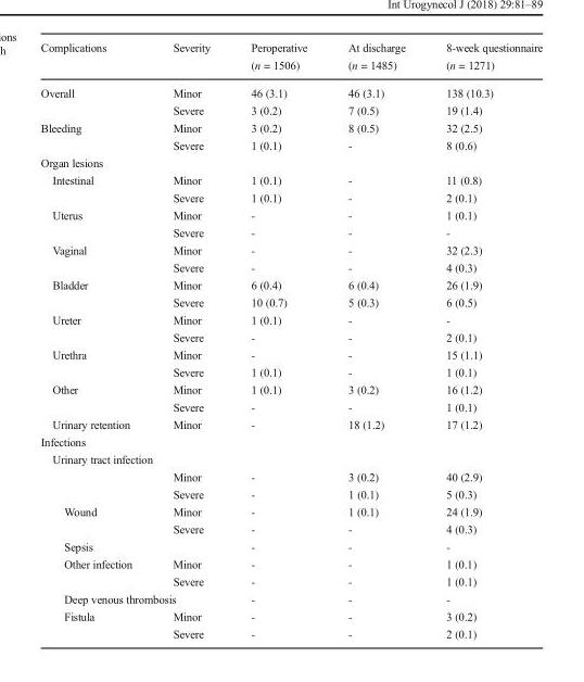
<table><thead><tr><td>Complications</td><td>Severity</td><td>Peroperative (n = 1506)</td><td>At discharge (n = 1485)</td><td>8-week questionnaire (n = 1271)</td></tr></thead><tbody><tr><td rowspan="2">Overall</td><td>Minor</td><td>46 (3.1)</td><td>46 (3.1)</td><td>138 (10.3)</td></tr><tr><td>Severe</td><td>3 (0.2)</td><td>7 (0.5)</td><td>19 (1.4)</td></tr><tr><td rowspan="2">Bleeding</td><td>Minor</td><td>3 (0.2)</td><td>8 (0.5)</td><td>32 (2.5)</td></tr><tr><td>Severe</td><td>1 (0.1)</td><td>-</td><td>8 (0.6)</td></tr><tr><td colspan="5">Organ lesions</td></tr><tr><td rowspan="2">Intestinal</td><td>Minor</td><td>1 (0.1)</td><td>-</td><td>11 (0.8)</td></tr><tr><td>Severe</td><td>1 (0.1)</td><td>-</td><td>2 (0.1)</td></tr><tr><td rowspan="2">Uterus</td><td>Minor</td><td>-</td><td>-</td><td>1 (0.1)</td></tr><tr><td>Severe</td><td>-</td><td>-</td><td>-</td></tr><tr><td rowspan="2">Vaginal</td><td>Minor</td><td>-</td><td>-</td><td>32 (2.3)</td></tr><tr><td>Severe</td><td>-</td><td>-</td><td>4 (0.3)</td></tr><tr><td rowspan="2">Bladder</td><td>Minor</td><td>6 (0.4)</td><td>6 (0.4)</td><td>26 (1.9)</td></tr><tr><td>Severe</td><td>10 (0.7)</td><td>5 (0.3)</td><td>6 (0.5)</td></tr><tr><td rowspan="2">Ureter</td><td>Minor</td><td>1 (0.1)</td><td>-</td><td>-</td></tr><tr><td>Severe</td><td>-</td><td>-</td><td>2 (0.1)</td></tr><tr><td rowspan="2">Urethra</td><td>Minor</td><td>-</td><td>-</td><td>15 (1.1)</td></tr><tr><td>Severe</td><td>1 (0.1)</td><td>-</td><td>1 (0.1)</td></tr><tr><td rowspan="2">Other</td><td>Minor</td><td>1 (0.1)</td><td>3 (0.2)</td><td>16 (1.2)</td></tr><tr><td>Severe</td><td>-</td><td>-</td><td>1 (0.1)</td></tr><tr><td>Urinary retention</td><td>Minor</td><td>-</td><td>18 (1.2)</td><td>17 (1.2)</td></tr><tr><td colspan="5">Infections</td></tr><tr><td colspan="5">Urinary tract infection</td></tr><tr><td rowspan="2"></td><td>Minor</td><td>-</td><td>3 (0.2)</td><td>40 (2.9)</td></tr><tr><td>Severe</td><td>-</td><td>1 (0.1)</td><td>5 (0.3)</td></tr><tr><td rowspan="2">Wound</td><td>Minor</td><td>-</td><td>1 (0.1)</td><td>24 (1.9)</td></tr><tr><td>Severe</td><td>-</td><td>-</td><td>4 (0.3)</td></tr><tr><td>Sepsis</td><td></td><td>-</td><td>-</td><td>-</td></tr><tr><td rowspan="2">Other infection</td><td>Minor</td><td>-</td><td>-</td><td>1 (0.1)</td></tr><tr><td>Severe</td><td>-</td><td>-</td><td>1 (0.1)</td></tr><tr><td colspan="2">Deep venous thrombosis</td><td>-</td><td>-</td><td>-</td></tr><tr><td rowspan="2">Fistula</td><td>Minor</td><td>-</td><td>-</td><td>3 (0.2)</td></tr><tr><td>Severe</td><td>-</td><td>-</td><td>2 (0.1)</td></tr></tbody></table>